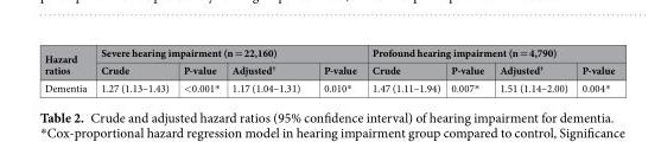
<table><thead><tr><td rowspan="2">Hazard ratios</td><td colspan="4">Severe hearing impairment (n = 22,160)</td><td colspan="4">Profound hearing impairment (n = 4,790)</td></tr><tr><td>Crude</td><td>P-value</td><td>Adjusted<sup>†</sup></td><td>P-value</td><td>Crude</td><td>P-value</td><td>Adjusted<sup>†</sup></td><td>P-value</td></tr></thead><tbody><tr><td>Dementia</td><td>1.27 (1.13–1.43)</td><td>&lt;0.001*</td><td>1.17 (1.04–1.31)</td><td>0.010*</td><td>1.47 (1.11–1.94)</td><td>0.007*</td><td>1.51 (1.14–2.00)</td><td>0.004*</td></tr></tbody></table>